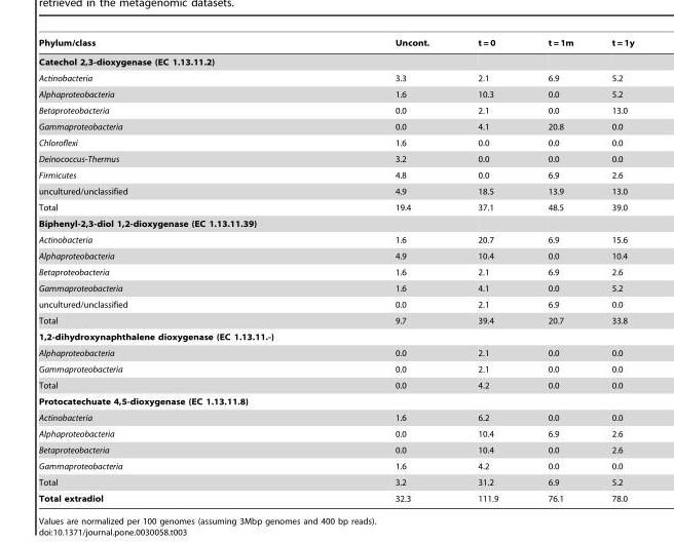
<table><thead><tr><td>Phylum/class</td><td>Uncont.</td><td>t = 0</td><td>t = 1m</td><td>t = 1y</td></tr></thead><tbody><tr><td colspan="5">Catechol 2,3-dioxygenase (EC 1.13.11.2)</td></tr><tr><td>Actinobacteria</td><td>3.3</td><td>2.1</td><td>6.9</td><td>5.2</td></tr><tr><td>Alphaproteobacteria</td><td>1.6</td><td>10.3</td><td>0.0</td><td>5.2</td></tr><tr><td>Betaproteobacteria</td><td>0.0</td><td>2.1</td><td>0.0</td><td>13.0</td></tr><tr><td>Gammaproteobacteria</td><td>0.0</td><td>4.1</td><td>20.8</td><td>0.0</td></tr><tr><td>Chloroflexi</td><td>1.6</td><td>0.0</td><td>0.0</td><td>0.0</td></tr><tr><td>Deinococcus-Thermus</td><td>3.2</td><td>0.0</td><td>0.0</td><td>0.0</td></tr><tr><td>Firmicutes</td><td>4.8</td><td>0.0</td><td>6.9</td><td>2.6</td></tr><tr><td>uncultured/unclassified</td><td>4.9</td><td>18.5</td><td>13.9</td><td>13.0</td></tr><tr><td>Total</td><td>19.4</td><td>37.1</td><td>48.5</td><td>39.0</td></tr><tr><td colspan="5">Biphenyl-2,3-diol 1,2-dioxygenase (EC 1.13.11.39)</td></tr><tr><td>Actinobacteria</td><td>1.6</td><td>20.7</td><td>6.9</td><td>15.6</td></tr><tr><td>Alphaproteobacteria</td><td>4.9</td><td>10.4</td><td>0.0</td><td>10.4</td></tr><tr><td>Betaproteobacteria</td><td>1.6</td><td>2.1</td><td>6.9</td><td>2.6</td></tr><tr><td>Gammaproteobacteria</td><td>1.6</td><td>4.1</td><td>0.0</td><td>5.2</td></tr><tr><td>uncultured/unclassified</td><td>0.0</td><td>2.1</td><td>6.9</td><td>0.0</td></tr><tr><td>Total</td><td>9.7</td><td>39.4</td><td>20.7</td><td>33.8</td></tr><tr><td colspan="5">1,2-dihydroxynaphthalene dioxygenase (EC 1.13.11.-)</td></tr><tr><td>Alphaproteobacteria</td><td>0.0</td><td>2.1</td><td>0.0</td><td>0.0</td></tr><tr><td>Gammaproteobacteria</td><td>0.0</td><td>2.1</td><td>0.0</td><td>0.0</td></tr><tr><td>Total</td><td>0.0</td><td>4.2</td><td>0.0</td><td>0.0</td></tr><tr><td colspan="5">Protocatechuate 4,5-dioxygenase (EC 1.13.11.8)</td></tr><tr><td>Actinobacteria</td><td>1.6</td><td>6.2</td><td>0.0</td><td>0.0</td></tr><tr><td>Alphaproteobacteria</td><td>0.0</td><td>10.4</td><td>6.9</td><td>2.6</td></tr><tr><td>Betaproteobacteria</td><td>0.0</td><td>10.4</td><td>0.0</td><td>2.6</td></tr><tr><td>Gammaproteobacteria</td><td>1.6</td><td>4.2</td><td>0.0</td><td>0.0</td></tr><tr><td>Total</td><td>3.2</td><td>31.2</td><td>6.9</td><td>5.2</td></tr><tr><td>Total extradiol</td><td>32.3</td><td>111.9</td><td>76.1</td><td>78.0</td></tr></tbody></table>